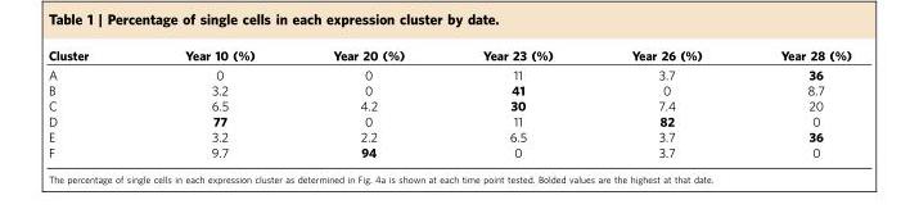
<table><thead><tr><td>Cluster</td><td>Year 10 (%)</td><td>Year 20 (%)</td><td>Year 23 (%)</td><td>Year 26 (%)</td><td>Year 28 (%)</td></tr></thead><tbody><tr><td>A</td><td>0</td><td>0</td><td>11</td><td>3.7</td><td>36</td></tr><tr><td>B</td><td>3.2</td><td>0</td><td>41</td><td>0</td><td>8.7</td></tr><tr><td>C</td><td>6.5</td><td>4.2</td><td>30</td><td>7.4</td><td>20</td></tr><tr><td>D</td><td>77</td><td>0</td><td>11</td><td>82</td><td>0</td></tr><tr><td>E</td><td>3.2</td><td>2.2</td><td>6.5</td><td>3.7</td><td>36</td></tr><tr><td>F</td><td>9.7</td><td>94</td><td>0</td><td>3.7</td><td>0</td></tr></tbody></table>